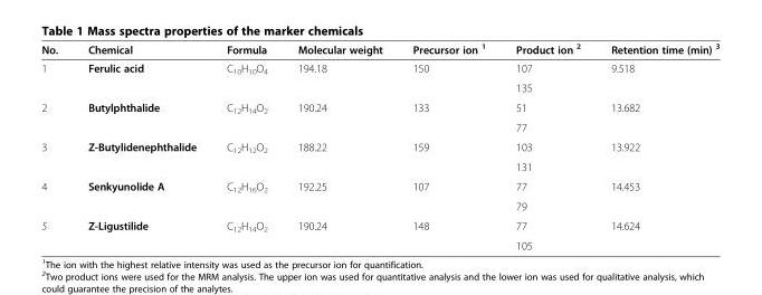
<table><thead><tr><td>No.</td><td>Chemical</td><td>Formula</td><td>Molecular weight</td><td>Precursor ion <sup>1</sup></td><td>Product ion <sup>2</sup></td><td>Retention time (min) <sup>3</sup></td></tr></thead><tbody><tr><td rowspan="2">1</td><td rowspan="2">Ferulic acid</td><td rowspan="2">C<sub>10</sub>H<sub>10</sub>O<sub>4</sub></td><td rowspan="2">194.18</td><td rowspan="2">150</td><td>107</td><td rowspan="2">9.518</td></tr><tr><td>135</td></tr><tr><td rowspan="2">2</td><td rowspan="2">Butylphthalide</td><td rowspan="2">C<sub>12</sub>H<sub>14</sub>O<sub>2</sub></td><td rowspan="2">190.24</td><td rowspan="2">133</td><td>51</td><td rowspan="2">13.682</td></tr><tr><td>77</td></tr><tr><td rowspan="2">3</td><td rowspan="2">Z-Butylidenephthalide</td><td rowspan="2">C<sub>12</sub>H<sub>12</sub>O<sub>2</sub></td><td rowspan="2">188.22</td><td rowspan="2">159</td><td>103</td><td rowspan="2">13.922</td></tr><tr><td>131</td></tr><tr><td rowspan="2">4</td><td rowspan="2">Senkyunolide A</td><td rowspan="2">C<sub>12</sub>H<sub>16</sub>O<sub>2</sub></td><td rowspan="2">192.25</td><td rowspan="2">107</td><td>77</td><td rowspan="2">14.453</td></tr><tr><td>79</td></tr><tr><td rowspan="2">5</td><td rowspan="2">Z-Ligustilide</td><td rowspan="2">C<sub>12</sub>H<sub>14</sub>O<sub>2</sub></td><td rowspan="2">190.24</td><td rowspan="2">148</td><td>77</td><td rowspan="2">14.624</td></tr><tr><td>105</td></tr></tbody></table>